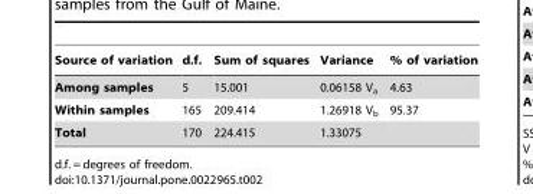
<table><thead><tr><td>Source of variation</td><td>d.f.</td><td>Sum of squares</td><td>Variance</td><td>% of variation</td></tr></thead><tbody><tr><td>Among samples</td><td>5</td><td>15.001</td><td>0.06158 V<sub>a</sub></td><td>4.63</td></tr><tr><td>Within samples</td><td>165</td><td>209.414</td><td>1.26918 V<sub>b</sub></td><td>95.37</td></tr><tr><td>Total</td><td>170</td><td>224.415</td><td>1.33075</td><td></td></tr></tbody></table>